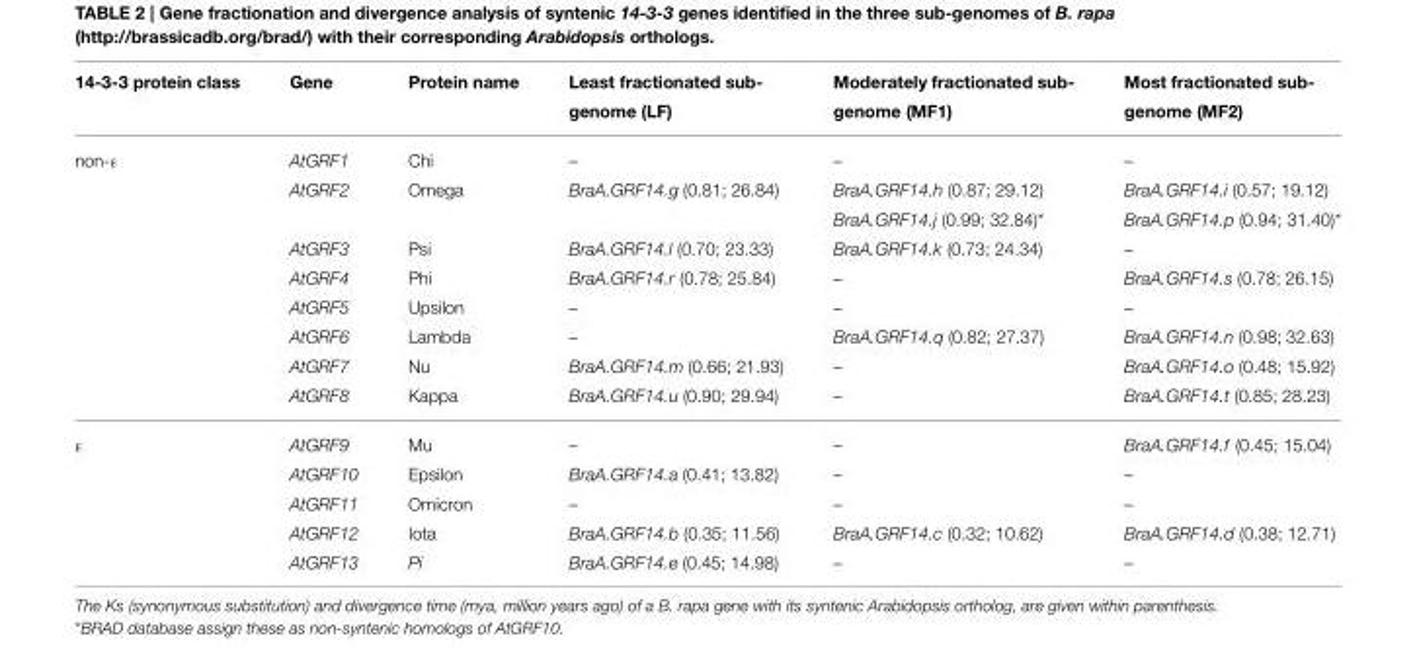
<table><thead><tr><td>14-3-3 protein class</td><td>Gene</td><td>Protein name</td><td>Least fractionated sub- genome (LF)</td><td>Moderately fractionated sub- genome (MF1)</td><td>Most fractionated sub- genome (MF2)</td></tr></thead><tbody><tr><td rowspan="9">non-ε</td><td>AtGRF1</td><td>Chi</td><td>–</td><td>–</td><td>–</td></tr><tr><td>AtGRF2</td><td>Omega</td><td>BraA.GRF14.g (0.81; 26.84)</td><td>BraA.GRF14.h (0.87; 29.12)</td><td>BraA.GRF14.i (0.57; 19.12)</td></tr><tr><td></td><td></td><td></td><td>BraA.GRF14.j (0.99; 32.84)*</td><td>BraA.GRF14.p (0.94; 31.40)*</td></tr><tr><td>AtGRF3</td><td>Psi</td><td>BraA.GRF14.l (0.70; 23.33)</td><td>BraA.GRF14.k (0.73; 24.34)</td><td>–</td></tr><tr><td>AtGRF4</td><td>Phi</td><td>BraA.GRF14.r (0.78; 25.84)</td><td>–</td><td>BraA.GRF14.s (0.78; 26.15)</td></tr><tr><td>AtGRF5</td><td>Upsilon</td><td>–</td><td>–</td><td>–</td></tr><tr><td>AtGRF6</td><td>Lambda</td><td>–</td><td>BraA.GRF14.q (0.82; 27.37)</td><td>BraA.GRF14.n (0.98; 32.63)</td></tr><tr><td>AtGRF7</td><td>Nu</td><td>BraA.GRF14.m (0.66; 21.93)</td><td>–</td><td>BraA.GRF14.o (0.48; 15.92)</td></tr><tr><td>AtGRF8</td><td>Kappa</td><td>BraA.GRF14.u (0.90; 29.94)</td><td>–</td><td>BraA.GRF14.t (0.85; 28.23)</td></tr><tr><td rowspan="5">ε</td><td>AtGRF9</td><td>Mu</td><td>–</td><td>–</td><td>BraA.GRF14.f (0.45; 15.04)</td></tr><tr><td>AtGRF10</td><td>Epsilon</td><td>BraA.GRF14.a (0.41; 13.82)</td><td>–</td><td>–</td></tr><tr><td>AtGRF11</td><td>Omicron</td><td>–</td><td>–</td><td>–</td></tr><tr><td>AtGRF12</td><td>Iota</td><td>BraA.GRF14.b (0.35; 11.56)</td><td>BraA.GRF14.c (0.32; 10.62)</td><td>BraA.GRF14.d (0.38; 12.71)</td></tr><tr><td>AtGRF13</td><td>Pi</td><td>BraA.GRF14.e (0.45; 14.98)</td><td>–</td><td>–</td></tr></tbody></table>